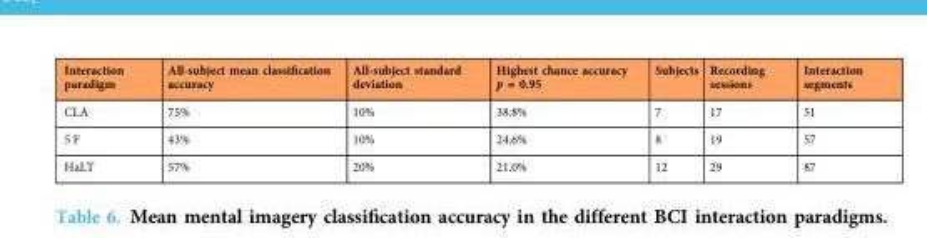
<table><thead><tr><td>Interaction paradigm</td><td>All-subject mean classification accuracy</td><td>All-subject standard deviation</td><td>Highest chance accuracy p = 0.95</td><td>Subjects</td><td>Recording sessions</td><td>Interaction segments</td></tr></thead><tbody><tr><td>CLA</td><td>75%</td><td>10%</td><td>38.8%</td><td>7</td><td>17</td><td>51</td></tr><tr><td>5 F</td><td>43%</td><td>10%</td><td>24.6%</td><td>8</td><td>19</td><td>57</td></tr><tr><td>HaLT</td><td>57%</td><td>20%</td><td>21.0%</td><td>12</td><td>29</td><td>87</td></tr></tbody></table>